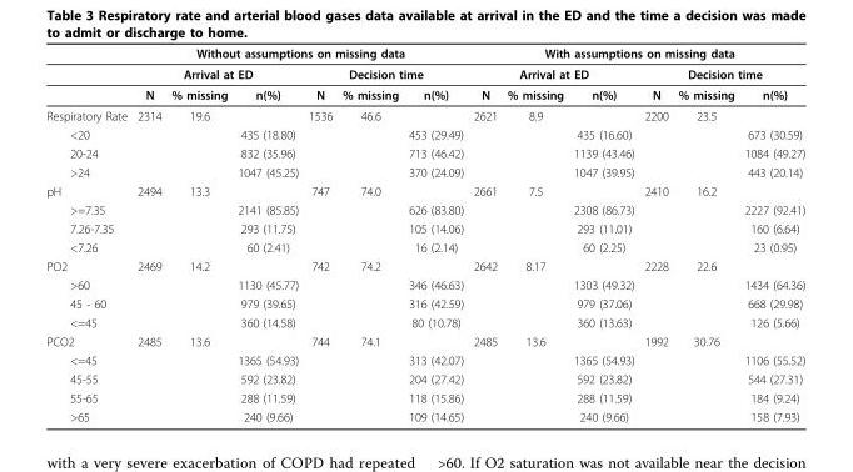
<table><thead><tr><td rowspan="3"></td><td colspan="6">Without assumptions on missing data</td><td colspan="6">With assumptions on missing data</td></tr><tr><td colspan="3">Arrival at ED</td><td colspan="3">Decision time</td><td colspan="3">Arrival at ED</td><td colspan="3">Decision time</td></tr><tr><td>N</td><td>% missing</td><td>n(%)</td><td>N</td><td>% missing</td><td>n(%)</td><td>N</td><td>% missing</td><td>n(%)</td><td>N</td><td>% missing</td><td>n(%)</td></tr></thead><tbody><tr><td>Respiratory Rate</td><td>2314</td><td>19.6</td><td></td><td>1536</td><td>46.6</td><td></td><td>2621</td><td>8.9</td><td></td><td>2200</td><td>23.5</td><td></td></tr><tr><td>&lt;20</td><td></td><td></td><td>435 (18.80)</td><td></td><td></td><td>453 (29.49)</td><td></td><td></td><td>435 (16.60)</td><td></td><td></td><td>673 (30.59)</td></tr><tr><td>20-24</td><td></td><td></td><td>832 (35.96)</td><td></td><td></td><td>713 (46.42)</td><td></td><td></td><td>1139 (43.46)</td><td></td><td></td><td>1084 (49.27)</td></tr><tr><td>&gt;24</td><td></td><td></td><td>1047 (45.25)</td><td></td><td></td><td>370 (24.09)</td><td></td><td></td><td>1047 (39.95)</td><td></td><td></td><td>443 (20.14)</td></tr><tr><td>pH</td><td>2494</td><td>13.3</td><td></td><td>747</td><td>74.0</td><td></td><td>2661</td><td>7.5</td><td></td><td>2410</td><td>16.2</td><td></td></tr><tr><td>&gt;=7.35</td><td></td><td></td><td>2141 (85.85)</td><td></td><td></td><td>626 (83.80)</td><td></td><td></td><td>2308 (86.73)</td><td></td><td></td><td>2227 (92.41)</td></tr><tr><td>7.26-7.35</td><td></td><td></td><td>293 (11.75)</td><td></td><td></td><td>105 (14.06)</td><td></td><td></td><td>293 (11.01)</td><td></td><td></td><td>160 (6.64)</td></tr><tr><td>&lt;7.26</td><td></td><td></td><td>60 (2.41)</td><td></td><td></td><td>16 (2.14)</td><td></td><td></td><td>60 (2.25)</td><td></td><td></td><td>23 (0.95)</td></tr><tr><td>PO2</td><td>2469</td><td>14.2</td><td></td><td>742</td><td>74.2</td><td></td><td>2642</td><td>8.17</td><td></td><td>2228</td><td>22.6</td><td></td></tr><tr><td>&gt;60</td><td></td><td></td><td>1130 (45.77)</td><td></td><td></td><td>346 (46.63)</td><td></td><td></td><td>1303 (49.32)</td><td></td><td></td><td>1434 (64.36)</td></tr><tr><td>45 - 60</td><td></td><td></td><td>979 (39.65)</td><td></td><td></td><td>316 (42.59)</td><td></td><td></td><td>979 (37.06)</td><td></td><td></td><td>668 (29.98)</td></tr><tr><td>&lt;=45</td><td></td><td></td><td>360 (14.58)</td><td></td><td></td><td>80 (10.78)</td><td></td><td></td><td>360 (13.63)</td><td></td><td></td><td>126 (5.66)</td></tr><tr><td>PCO2</td><td>2485</td><td>13.6</td><td></td><td>744</td><td>74.1</td><td></td><td>2485</td><td>13.6</td><td></td><td>1992</td><td>30.76</td><td></td></tr><tr><td>&lt;=45</td><td></td><td></td><td>1365 (54.93)</td><td></td><td></td><td>313 (42.07)</td><td></td><td></td><td>1365 (54.93)</td><td></td><td></td><td>1106 (55.52)</td></tr><tr><td>45-55</td><td></td><td></td><td>592 (23.82)</td><td></td><td></td><td>204 (27.42)</td><td></td><td></td><td>592 (23.82)</td><td></td><td></td><td>544 (27.31)</td></tr><tr><td>55-65</td><td></td><td></td><td>288 (11.59)</td><td></td><td></td><td>118 (15.86)</td><td></td><td></td><td>288 (11.59)</td><td></td><td></td><td>184 (9.24)</td></tr><tr><td>&gt;65</td><td></td><td></td><td>240 (9.66)</td><td></td><td></td><td>109 (14.65)</td><td></td><td></td><td>240 (9.66)</td><td></td><td></td><td>158 (7.93)</td></tr></tbody></table>